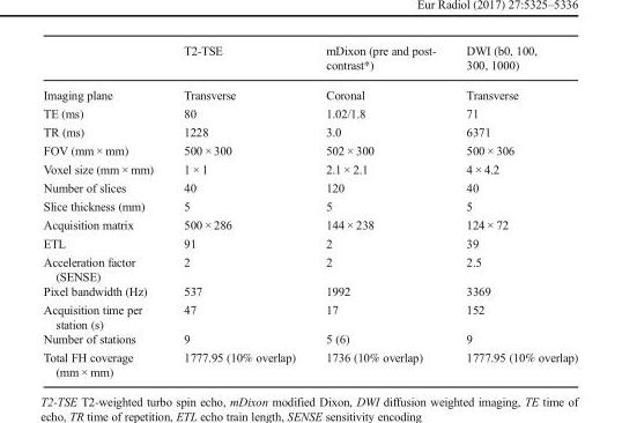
<table><thead><tr><td></td><td>T2-TSE</td><td>mDixon (pre and post- contrast*)</td><td>DWI (b0, 100, 300, 1000)</td></tr></thead><tbody><tr><td>Imaging plane</td><td>Transverse</td><td>Coronal</td><td>Transverse</td></tr><tr><td>TE (ms)</td><td>80</td><td>1.02/1.8</td><td>71</td></tr><tr><td>TR (ms)</td><td>1228</td><td>3.0</td><td>6371</td></tr><tr><td>FOV (mm × mm)</td><td>500 × 300</td><td>502 × 300</td><td>500 × 306</td></tr><tr><td>Voxel size (mm × mm)</td><td>1 × 1</td><td>2.1 × 2.1</td><td>4 × 4.2</td></tr><tr><td>Number of slices</td><td>40</td><td>120</td><td>40</td></tr><tr><td>Slice thickness (mm)</td><td>5</td><td>5</td><td>5</td></tr><tr><td>Acquisition matrix</td><td>500 × 286</td><td>144 × 238</td><td>124 × 72</td></tr><tr><td>ETL</td><td>91</td><td>2</td><td>39</td></tr><tr><td>Acceleration factor (SENSE)</td><td>2</td><td>2</td><td>2.5</td></tr><tr><td>Pixel bandwidth (Hz)</td><td>537</td><td>1992</td><td>3369</td></tr><tr><td>Acquisition time per station (s)</td><td>47</td><td>17</td><td>152</td></tr><tr><td>Number of stations</td><td>9</td><td>5 (6)</td><td>9</td></tr><tr><td>Total FH coverage (mm × mm)</td><td>1777.95 (10% overlap)</td><td>1736 (10% overlap)</td><td>1777.95 (10% overlap)</td></tr></tbody></table>